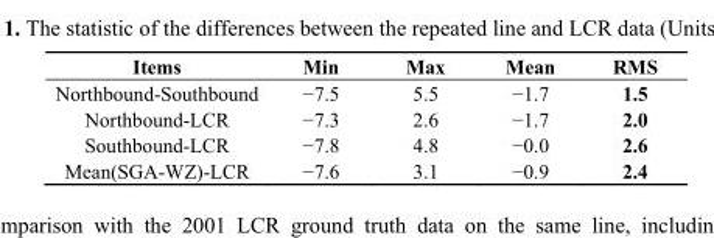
<table><thead><tr><td>Items</td><td>Min</td><td>Max</td><td>Mean</td><td>RMS</td></tr></thead><tbody><tr><td>Northbound-Southbound</td><td>−7.5</td><td>5.5</td><td>−1.7</td><td>1.5</td></tr><tr><td>Northbound-LCR</td><td>−7.3</td><td>2.6</td><td>−1.7</td><td>2.0</td></tr><tr><td>Southbound-LCR</td><td>−7.8</td><td>4.8</td><td>−0.0</td><td>2.6</td></tr><tr><td>Mean(SGA-WZ)-LCR</td><td>−7.6</td><td>3.1</td><td>−0.9</td><td>2.4</td></tr></tbody></table>